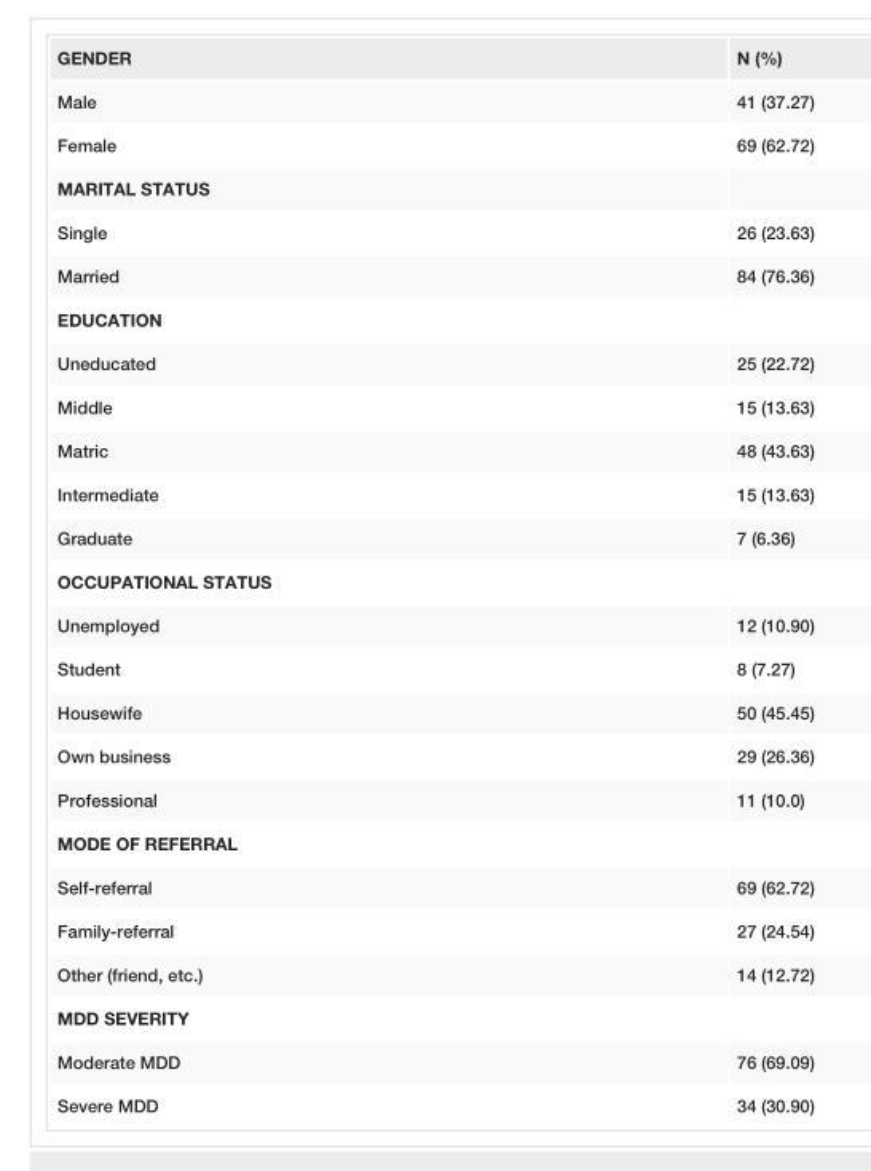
<table><tbody><tr><td>GENDER</td><td>N (%)</td></tr><tr><td>Male</td><td>41 (37.27)</td></tr><tr><td>Female</td><td>69 (62.72)</td></tr><tr><td colspan="2">MARITAL STATUS</td></tr><tr><td>Single</td><td>26 (23.63)</td></tr><tr><td>Married</td><td>84 (76.36)</td></tr><tr><td colspan="2">EDUCATION</td></tr><tr><td>Uneducated</td><td>25 (22.72)</td></tr><tr><td>Middle</td><td>15 (13.63)</td></tr><tr><td>Matric</td><td>48 (43.63)</td></tr><tr><td>Intermediate</td><td>15 (13.63)</td></tr><tr><td>Graduate</td><td>7 (6.36)</td></tr><tr><td colspan="2">OCCUPATIONAL STATUS</td></tr><tr><td>Unemployed</td><td>12 (10.90)</td></tr><tr><td>Student</td><td>8 (7.27)</td></tr><tr><td>Housewife</td><td>50 (45.45)</td></tr><tr><td>Own business</td><td>29 (26.36)</td></tr><tr><td>Professional</td><td>11 (10.0)</td></tr><tr><td colspan="2">MODE OF REFERRAL</td></tr><tr><td>Self-referral</td><td>69 (62.72)</td></tr><tr><td>Family-referral</td><td>27 (24.54)</td></tr><tr><td>Other (friend, etc.)</td><td>14 (12.72)</td></tr><tr><td colspan="2">MDD SEVERITY</td></tr><tr><td>Moderate MDD</td><td>76 (69.09)</td></tr><tr><td>Severe MDD</td><td>34 (30.90)</td></tr></tbody></table>